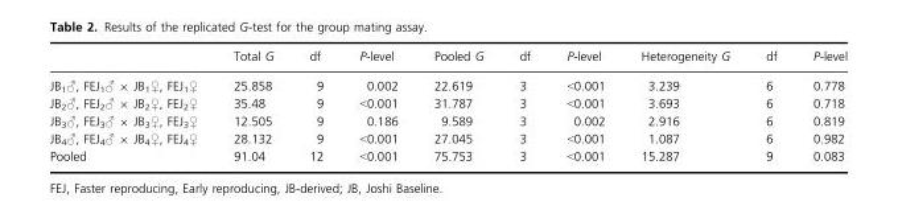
<table><thead><tr><td></td><td>Total G</td><td>df</td><td>P-level</td><td>Pooled G</td><td>df</td><td>P-level</td><td>Heterogeneity G</td><td>df</td><td>P-level</td></tr></thead><tbody><tr><td>JB<sub>1</sub>♂, FEJ<sub>1</sub>♂ × JB<sub>1</sub>♀, FEJ<sub>1</sub>♀</td><td>25.858</td><td>9</td><td>0.002</td><td>22.619</td><td>3</td><td>&lt;0.001</td><td>3.239</td><td>6</td><td>0.778</td></tr><tr><td>JB<sub>2</sub>♂, FEJ<sub>2</sub>♂ × JB<sub>2</sub>♀, FEJ<sub>2</sub>♀</td><td>35.48</td><td>9</td><td>&lt;0.001</td><td>31.787</td><td>3</td><td>&lt;0.001</td><td>3.693</td><td>6</td><td>0.718</td></tr><tr><td>JB<sub>3</sub>♂, FEJ<sub>3</sub>♂ × JB<sub>3</sub>♀, FEJ<sub>3</sub>♀</td><td>12.505</td><td>9</td><td>0.186</td><td>9.589</td><td>3</td><td>0.002</td><td>2.916</td><td>6</td><td>0.819</td></tr><tr><td>JB<sub>4</sub>♂, FEJ<sub>4</sub>♂ × JB<sub>4</sub>♀, FEJ<sub>4</sub>♀</td><td>28.132</td><td>9</td><td>&lt;0.001</td><td>27.045</td><td>3</td><td>&lt;0.001</td><td>1.087</td><td>6</td><td>0.982</td></tr><tr><td>Pooled</td><td>91.04</td><td>12</td><td>&lt;0.001</td><td>75.753</td><td>3</td><td>&lt;0.001</td><td>15.287</td><td>9</td><td>0.083</td></tr></tbody></table>